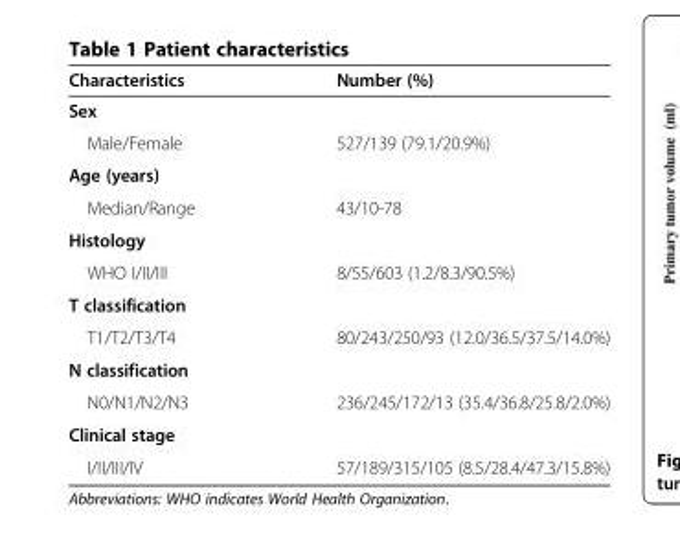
<table><thead><tr><td>Characteristics</td><td>Number (%)</td></tr></thead><tbody><tr><td colspan="2">Sex</td></tr><tr><td>Male/Female</td><td>527/139 (79.1/20.9%)</td></tr><tr><td colspan="2">Age (years)</td></tr><tr><td>Median/Range</td><td>43/10-78</td></tr><tr><td colspan="2">Histology</td></tr><tr><td>WHO I/II/III</td><td>8/55/603 (1.2/8.3/90.5%)</td></tr><tr><td colspan="2">T classification</td></tr><tr><td>T1/T2/T3/T4</td><td>80/243/250/93 (12.0/36.5/37.5/14.0%)</td></tr><tr><td colspan="2">N classification</td></tr><tr><td>N0/N1/N2/N3</td><td>236/245/172/13 (35.4/36.8/25.8/2.0%)</td></tr><tr><td colspan="2">Clinical stage</td></tr><tr><td>I/II/III/IV</td><td>57/189/315/105 (8.5/28.4/47.3/15.8%)</td></tr></tbody></table>